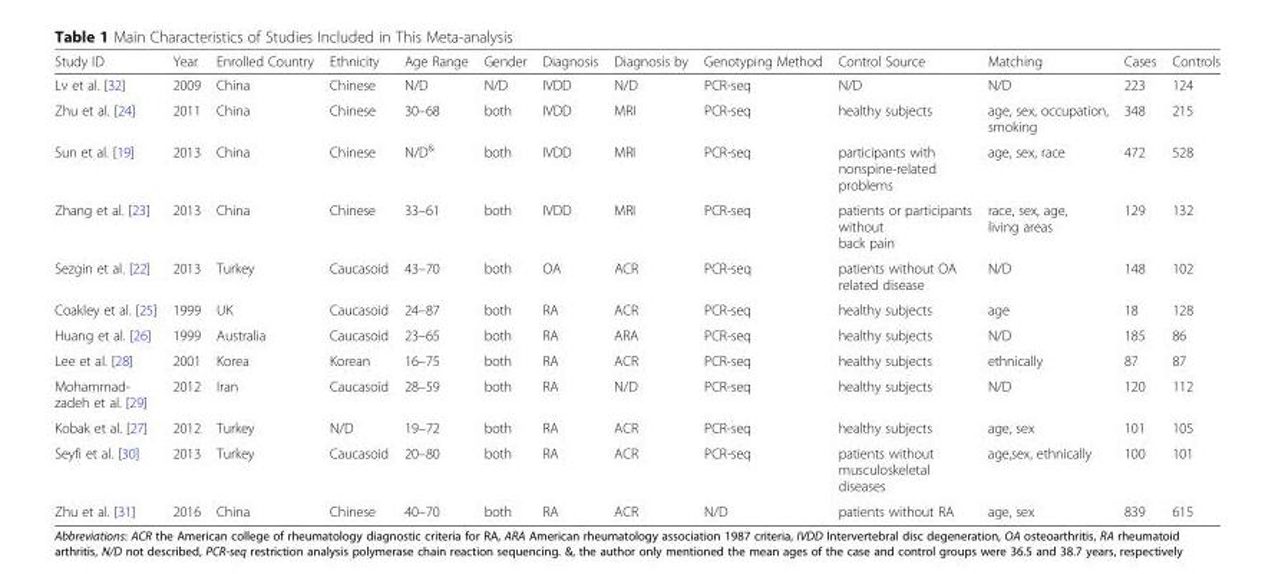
<table><thead><tr><td>Study ID</td><td>Year</td><td>Enrolled Country</td><td>Ethnicity</td><td>Age Range</td><td>Gender</td><td>Diagnosis</td><td>Diagnosis by</td><td>Genotyping Method</td><td>Control Source</td><td>Matching</td><td>Cases</td><td>Controls</td></tr></thead><tbody><tr><td>Lv et al. [32]</td><td>2009</td><td>China</td><td>Chinese</td><td>N/D</td><td>N/D</td><td>IVDD</td><td>N/D</td><td>PCR-seq</td><td>N/D</td><td>N/D</td><td>223</td><td>124</td></tr><tr><td>Zhu et al. [24]</td><td>2011</td><td>China</td><td>Chinese</td><td>30–68</td><td>both</td><td>IVDD</td><td>MRI</td><td>PCR-seq</td><td>healthy subjects</td><td>age, sex, occupation, smoking</td><td>348</td><td>215</td></tr><tr><td>Sun et al. [19]</td><td>2013</td><td>China</td><td>Chinese</td><td>N/D<sup>&amp;</sup></td><td>both</td><td>IVDD</td><td>MRI</td><td>PCR-seq</td><td>participants with nonspine-related problems</td><td>age, sex, race</td><td>472</td><td>528</td></tr><tr><td>Zhang et al. [23]</td><td>2013</td><td>China</td><td>Chinese</td><td>33–61</td><td>both</td><td>IVDD</td><td>MRI</td><td>PCR-seq</td><td>patients or participants without back pain</td><td>race, sex, age, living areas</td><td>129</td><td>132</td></tr><tr><td>Sezgin et al. [22]</td><td>2013</td><td>Turkey</td><td>Caucasoid</td><td>43–70</td><td>both</td><td>OA</td><td>ACR</td><td>PCR-seq</td><td>patients without OA related disease</td><td>N/D</td><td>148</td><td>102</td></tr><tr><td>Coakley et al. [25]</td><td>1999</td><td>UK</td><td>Caucasoid</td><td>24–87</td><td>both</td><td>RA</td><td>ACR</td><td>PCR-seq</td><td>healthy subjects</td><td>age</td><td>18</td><td>128</td></tr><tr><td>Huang et al. [26]</td><td>1999</td><td>Australia</td><td>Caucasoid</td><td>23–65</td><td>both</td><td>RA</td><td>ARA</td><td>PCR-seq</td><td>healthy subjects</td><td>N/D</td><td>185</td><td>86</td></tr><tr><td>Lee et al. [28]</td><td>2001</td><td>Korea</td><td>Korean</td><td>16–75</td><td>both</td><td>RA</td><td>ACR</td><td>PCR-seq</td><td>healthy subjects</td><td>ethnically</td><td>87</td><td>87</td></tr><tr><td>Mohammad- zadeh et al. [29]</td><td>2012</td><td>Iran</td><td>Caucasoid</td><td>28–59</td><td>both</td><td>RA</td><td>N/D</td><td>PCR-seq</td><td>healthy subjects</td><td>N/D</td><td>120</td><td>112</td></tr><tr><td>Kobak et al. [27]</td><td>2012</td><td>Turkey</td><td>N/D</td><td>19–72</td><td>both</td><td>RA</td><td>ACR</td><td>PCR-seq</td><td>healthy subjects</td><td>age, sex</td><td>101</td><td>105</td></tr><tr><td>Seyfi et al. [30]</td><td>2013</td><td>Turkey</td><td>Caucasoid</td><td>20–80</td><td>both</td><td>RA</td><td>ACR</td><td>PCR-seq</td><td>patients without musculoskeletal diseases</td><td>age,sex, ethnically</td><td>100</td><td>101</td></tr><tr><td>Zhu et al. [31]</td><td>2016</td><td>China</td><td>Chinese</td><td>40–70</td><td>both</td><td>RA</td><td>ACR</td><td>N/D</td><td>patients without RA</td><td>age, sex</td><td>839</td><td>615</td></tr></tbody></table>